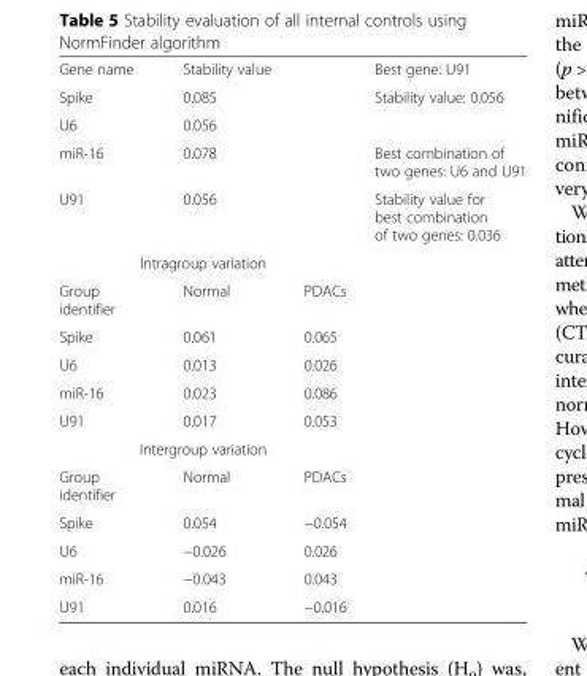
<table><tbody><tr><td>Gene name</td><td>Stability value</td><td></td><td>Best gene: U91</td></tr><tr><td>Spike</td><td>0.085</td><td></td><td>Stability value: 0.056</td></tr><tr><td>U6</td><td>0.056</td><td></td><td></td></tr><tr><td>miR-16</td><td>0.078</td><td></td><td>Best combination of two genes: U6 and U91</td></tr><tr><td>U91</td><td>0.056</td><td></td><td>Stability value for best combination of two genes: 0.036</td></tr><tr><td colspan="4">Intragroup variation</td></tr><tr><td>Group identifier</td><td>Normal</td><td>PDACs</td><td></td></tr><tr><td>Spike</td><td>0.061</td><td>0.065</td><td></td></tr><tr><td>U6</td><td>0.013</td><td>0.026</td><td></td></tr><tr><td>miR-16</td><td>0.023</td><td>0.086</td><td></td></tr><tr><td>U91</td><td>0.017</td><td>0.053</td><td></td></tr><tr><td colspan="4">Intergroup variation</td></tr><tr><td>Group identifier</td><td>Normal</td><td>PDACs</td><td></td></tr><tr><td>Spike</td><td>0.054</td><td>−0.054</td><td></td></tr><tr><td>U6</td><td>−0.026</td><td>0.026</td><td></td></tr><tr><td>miR-16</td><td>−0.043</td><td>0.043</td><td></td></tr><tr><td>U91</td><td>0.016</td><td>−0.016</td><td></td></tr></tbody></table>